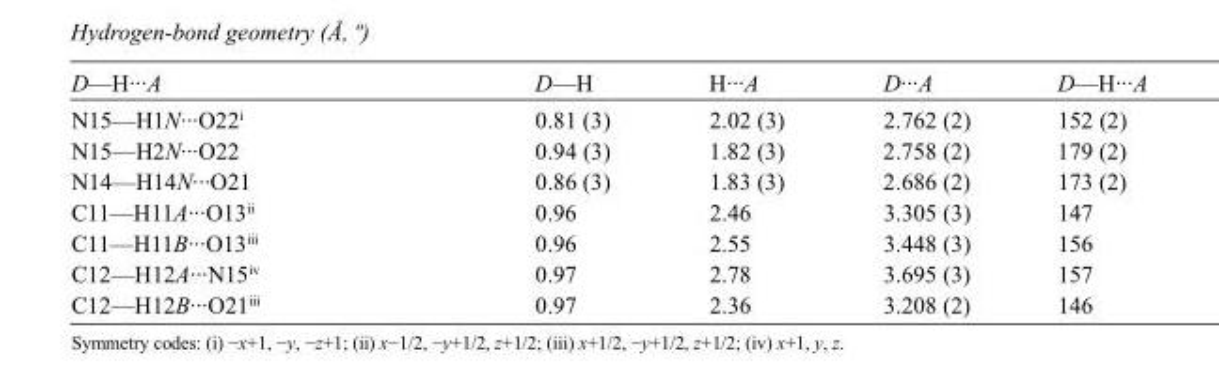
<table><tbody><tr><td>D—H···A</td><td>D—H</td><td>H···A</td><td>D···A</td><td>D—H···A</td></tr><tr><td>N15—H1N···O22<sup>i</sup></td><td>0.81 (3)</td><td>2.02 (3)</td><td>2.762 (2)</td><td>152 (2)</td></tr><tr><td>N15—H2N···O22</td><td>0.94 (3)</td><td>1.82 (3)</td><td>2.758 (2)</td><td>179 (2)</td></tr><tr><td>N14—H14N···O21</td><td>0.86 (3)</td><td>1.83 (3)</td><td>2.686 (2)</td><td>173 (2)</td></tr><tr><td>C11—H11A···O13<sup>ii</sup></td><td>0.96</td><td>2.46</td><td>3.305 (3)</td><td>147</td></tr><tr><td>C11—H11B···O13<sup>iii</sup></td><td>0.96</td><td>2.55</td><td>3.448 (3)</td><td>156</td></tr><tr><td>C12—H12A···N15<sup>iv</sup></td><td>0.97</td><td>2.78</td><td>3.695 (3)</td><td>157</td></tr><tr><td>C12—H12B···O21<sup>iii</sup></td><td>0.97</td><td>2.36</td><td>3.208 (2)</td><td>146</td></tr></tbody></table>